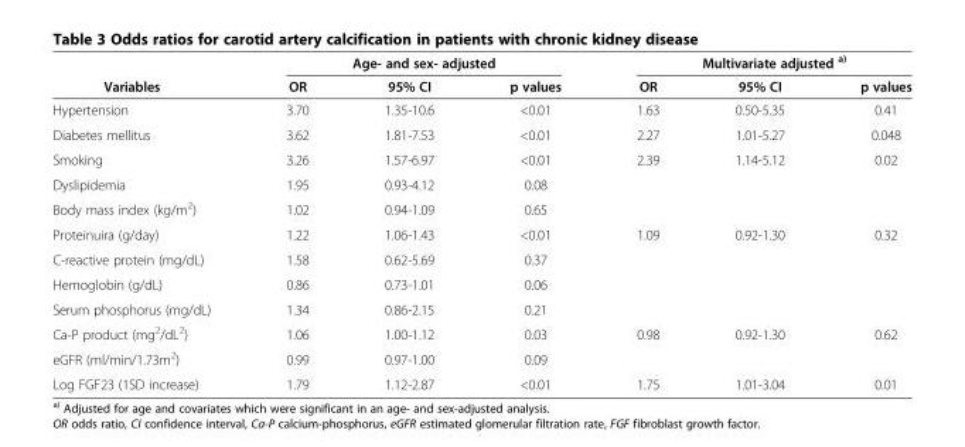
<table><thead><tr><td rowspan="2">Variables</td><td colspan="3">Age- and sex- adjusted</td><td colspan="3">Multivariate adjusted <sup>a)</sup></td></tr><tr><td>OR</td><td>95% CI</td><td>p values</td><td>OR</td><td>95% CI</td><td>p values</td></tr></thead><tbody><tr><td>Hypertension</td><td>3.70</td><td>1.35-10.6</td><td>&lt;0.01</td><td>1.63</td><td>0.50-5.35</td><td>0.41</td></tr><tr><td>Diabetes mellitus</td><td>3.62</td><td>1.81-7.53</td><td>&lt;0.01</td><td>2.27</td><td>1.01-5.27</td><td>0.048</td></tr><tr><td>Smoking</td><td>3.26</td><td>1.57-6.97</td><td>&lt;0.01</td><td>2.39</td><td>1.14-5.12</td><td>0.02</td></tr><tr><td>Dyslipidemia</td><td>1.95</td><td>0.93-4.12</td><td>0.08</td><td></td><td></td><td></td></tr><tr><td>Body mass index (kg/m<sup>2</sup>)</td><td>1.02</td><td>0.94-1.09</td><td>0.65</td><td></td><td></td><td></td></tr><tr><td>Proteinuira (g/day)</td><td>1.22</td><td>1.06-1.43</td><td>&lt;0.01</td><td>1.09</td><td>0.92-1.30</td><td>0.32</td></tr><tr><td>C-reactive protein (mg/dL)</td><td>1.58</td><td>0.62-5.69</td><td>0.37</td><td></td><td></td><td></td></tr><tr><td>Hemoglobin (g/dL)</td><td>0.86</td><td>0.73-1.01</td><td>0.06</td><td></td><td></td><td></td></tr><tr><td>Serum phosphorus (mg/dL)</td><td>1.34</td><td>0.86-2.15</td><td>0.21</td><td></td><td></td><td></td></tr><tr><td>Ca-P product (mg<sup>2</sup>/dL<sup>2</sup>)</td><td>1.06</td><td>1.00-1.12</td><td>0.03</td><td>0.98</td><td>0.92-1.30</td><td>0.62</td></tr><tr><td>eGFR (ml/min/1.73m<sup>2</sup>)</td><td>0.99</td><td>0.97-1.00</td><td>0.09</td><td></td><td></td><td></td></tr><tr><td>Log FGF23 (1SD increase)</td><td>1.79</td><td>1.12-2.87</td><td>&lt;0.01</td><td>1.75</td><td>1.01-3.04</td><td>0.01</td></tr></tbody></table>